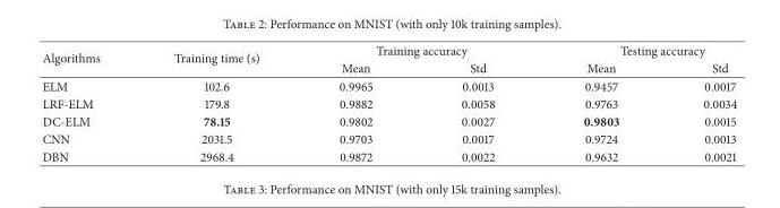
<table><thead><tr><td rowspan="2">Algorithms</td><td rowspan="2">Training time (s)</td><td colspan="2">Training accuracy</td><td colspan="2">Testing accuracy</td></tr><tr><td>Mean</td><td>Std</td><td>Mean</td><td>Std</td></tr></thead><tbody><tr><td>ELM</td><td>102.6</td><td>0.9965</td><td>0.0013</td><td>0.9457</td><td>0.0017</td></tr><tr><td>LRF-ELM</td><td>179.8</td><td>0.9882</td><td>0.0058</td><td>0.9763</td><td>0.0034</td></tr><tr><td>DC-ELM</td><td>78.15</td><td>0.9802</td><td>0.0027</td><td>0.9803</td><td>0.0015</td></tr><tr><td>CNN</td><td>2031.5</td><td>0.9703</td><td>0.0017</td><td>0.9724</td><td>0.0013</td></tr><tr><td>DBN</td><td>2968.4</td><td>0.9872</td><td>0.0022</td><td>0.9632</td><td>0.0021</td></tr></tbody></table>